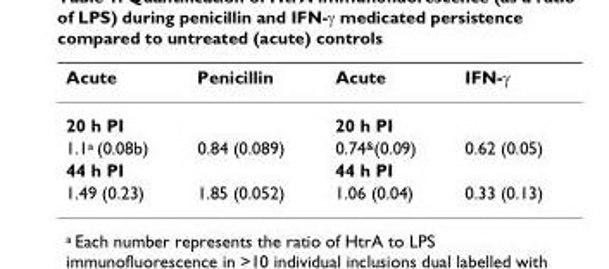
<table><thead><tr><td>Acute</td><td>Penicillin</td><td>Acute</td><td>IFN-γ</td></tr></thead><tbody><tr><td>20 h PI</td><td></td><td>20 h PI</td><td></td></tr><tr><td>1.1<sup>a</sup> (0.08b)</td><td>0.84 (0.089)</td><td>0.74<sup>&amp;</sup>(0.09)</td><td>0.62 (0.05)</td></tr><tr><td>44 h PI</td><td></td><td>44 h PI</td><td></td></tr><tr><td>1.49 (0.23)</td><td>1.85 (0.052)</td><td>1.06 (0.04)</td><td>0.33 (0.13)</td></tr></tbody></table>